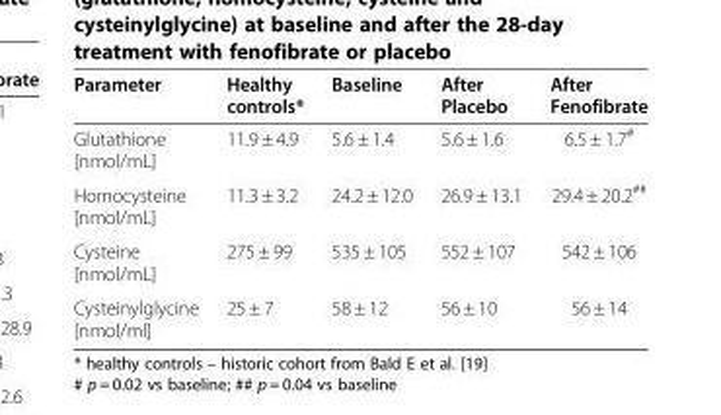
<table><thead><tr><td>Parameter</td><td>Healthy controls*</td><td>Baseline</td><td>After Placebo</td><td>After Fenofibrate</td></tr></thead><tbody><tr><td>Glutathione [nmol/mL]</td><td>11.9 ± 4.9</td><td>5.6 ± 1.4</td><td>5.6 ± 1.6</td><td>6.5 ± 1.7<sup>#</sup></td></tr><tr><td>Homocysteine [nmol/mL]</td><td>11.3 ± 3.2</td><td>24.2 ± 12.0</td><td>26.9 ± 13.1</td><td>29.4 ± 20.2<sup>##</sup></td></tr><tr><td>Cysteine [nmol/mL]</td><td>275 ± 99</td><td>535 ± 105</td><td>552 ± 107</td><td>542 ± 106</td></tr><tr><td>Cysteinylglycine [nmol/ml]</td><td>25 ± 7</td><td>58 ± 12</td><td>56 ± 10</td><td>56 ± 14</td></tr></tbody></table>